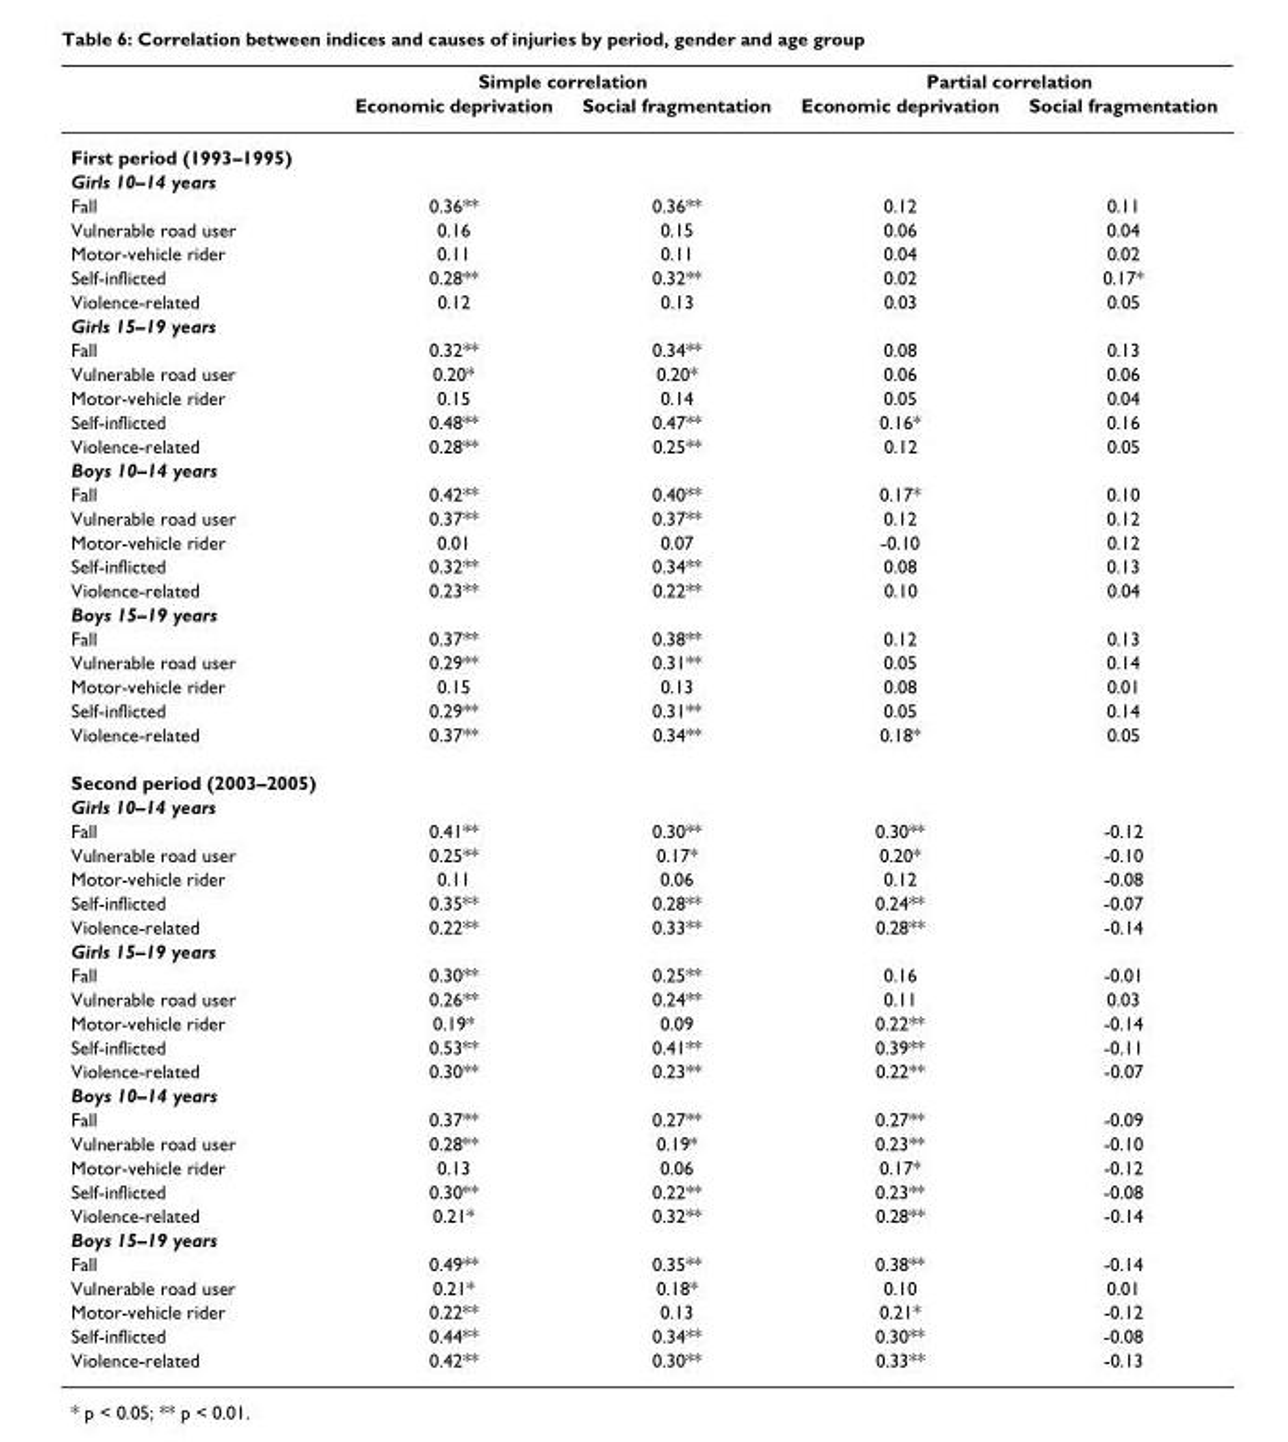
<table><thead><tr><td rowspan="2"></td><td colspan="2">Simple correlation</td><td colspan="2">Partial correlation</td></tr><tr><td>Economic deprivation</td><td>Social fragmentation</td><td>Economic deprivation</td><td>Social fragmentation</td></tr></thead><tbody><tr><td colspan="5">First period (1993–1995)</td></tr><tr><td colspan="5">Girls 10–14 years</td></tr><tr><td>Fall</td><td>0.36**</td><td>0.36**</td><td>0.12</td><td>0.11</td></tr><tr><td>Vulnerable road user</td><td>0.16</td><td>0.15</td><td>0.06</td><td>0.04</td></tr><tr><td>Motor-vehicle rider</td><td>0.11</td><td>0.11</td><td>0.04</td><td>0.02</td></tr><tr><td>Self-inflicted</td><td>0.28**</td><td>0.32**</td><td>0.02</td><td>0.17*</td></tr><tr><td>Violence-related</td><td>0.12</td><td>0.13</td><td>0.03</td><td>0.05</td></tr><tr><td colspan="5">Girls 15–19 years</td></tr><tr><td>Fall</td><td>0.32**</td><td>0.34**</td><td>0.08</td><td>0.13</td></tr><tr><td>Vulnerable road user</td><td>0.20*</td><td>0.20*</td><td>0.06</td><td>0.06</td></tr><tr><td>Motor-vehicle rider</td><td>0.15</td><td>0.14</td><td>0.05</td><td>0.04</td></tr><tr><td>Self-inflicted</td><td>0.48**</td><td>0.47**</td><td>0.16*</td><td>0.16</td></tr><tr><td>Violence-related</td><td>0.28**</td><td>0.25**</td><td>0.12</td><td>0.05</td></tr><tr><td colspan="5">Boys 10–14 years</td></tr><tr><td>Fall</td><td>0.42**</td><td>0.40**</td><td>0.17*</td><td>0.10</td></tr><tr><td>Vulnerable road user</td><td>0.37**</td><td>0.37**</td><td>0.12</td><td>0.12</td></tr><tr><td>Motor-vehicle rider</td><td>0.01</td><td>0.07</td><td>-0.10</td><td>0.12</td></tr><tr><td>Self-inflicted</td><td>0.32**</td><td>0.34**</td><td>0.08</td><td>0.13</td></tr><tr><td>Violence-related</td><td>0.23**</td><td>0.22**</td><td>0.10</td><td>0.04</td></tr><tr><td colspan="5">Boys 15–19 years</td></tr><tr><td>Fall</td><td>0.37**</td><td>0.38**</td><td>0.12</td><td>0.13</td></tr><tr><td>Vulnerable road user</td><td>0.29**</td><td>0.31**</td><td>0.05</td><td>0.14</td></tr><tr><td>Motor-vehicle rider</td><td>0.15</td><td>0.13</td><td>0.08</td><td>0.01</td></tr><tr><td>Self-inflicted</td><td>0.29**</td><td>0.31**</td><td>0.05</td><td>0.14</td></tr><tr><td>Violence-related</td><td>0.37**</td><td>0.34**</td><td>0.18*</td><td>0.05</td></tr><tr><td colspan="5">Second period (2003–2005)</td></tr><tr><td colspan="5">Girls 10–14 years</td></tr><tr><td>Fall</td><td>0.41**</td><td>0.30**</td><td>0.30**</td><td>-0.12</td></tr><tr><td>Vulnerable road user</td><td>0.25**</td><td>0.17*</td><td>0.20*</td><td>-0.10</td></tr><tr><td>Motor-vehicle rider</td><td>0.11</td><td>0.06</td><td>0.12</td><td>-0.08</td></tr><tr><td>Self-inflicted</td><td>0.35**</td><td>0.28**</td><td>0.24**</td><td>-0.07</td></tr><tr><td>Violence-related</td><td>0.22**</td><td>0.33**</td><td>0.28**</td><td>-0.14</td></tr><tr><td colspan="5">Girls 15–19 years</td></tr><tr><td>Fall</td><td>0.30**</td><td>0.25**</td><td>0.16</td><td>-0.01</td></tr><tr><td>Vulnerable road user</td><td>0.26**</td><td>0.24**</td><td>0.11</td><td>0.03</td></tr><tr><td>Motor-vehicle rider</td><td>0.19*</td><td>0.09</td><td>0.22**</td><td>-0.14</td></tr><tr><td>Self-inflicted</td><td>0.53**</td><td>0.41**</td><td>0.39**</td><td>-0.11</td></tr><tr><td>Violence-related</td><td>0.30**</td><td>0.23**</td><td>0.22**</td><td>-0.07</td></tr><tr><td colspan="5">Boys 10–14 years</td></tr><tr><td>Fall</td><td>0.37**</td><td>0.27**</td><td>0.27**</td><td>-0.09</td></tr><tr><td>Vulnerable road user</td><td>0.28**</td><td>0.19*</td><td>0.23**</td><td>-0.10</td></tr><tr><td>Motor-vehicle rider</td><td>0.13</td><td>0.06</td><td>0.17*</td><td>-0.12</td></tr><tr><td>Self-inflicted</td><td>0.30**</td><td>0.22**</td><td>0.23**</td><td>-0.08</td></tr><tr><td>Violence-related</td><td>0.21*</td><td>0.32**</td><td>0.28**</td><td>-0.14</td></tr><tr><td colspan="5">Boys 15–19 years</td></tr><tr><td>Fall</td><td>0.49**</td><td>0.35**</td><td>0.38**</td><td>-0.14</td></tr><tr><td>Vulnerable road user</td><td>0.21*</td><td>0.18*</td><td>0.10</td><td>0.01</td></tr><tr><td>Motor-vehicle rider</td><td>0.22**</td><td>0.13</td><td>0.21*</td><td>-0.12</td></tr><tr><td>Self-inflicted</td><td>0.44**</td><td>0.34**</td><td>0.30**</td><td>-0.08</td></tr><tr><td>Violence-related</td><td>0.42**</td><td>0.30**</td><td>0.33**</td><td>-0.13</td></tr></tbody></table>